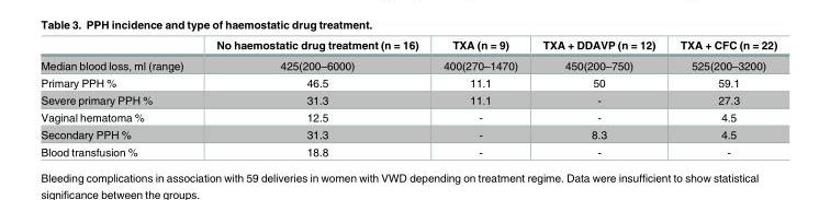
<table><thead><tr><td></td><td>No haemostatic drug treatment (n = 16)</td><td>TXA (n = 9)</td><td>TXA + DDAVP (n = 12)</td><td>TXA + CFC (n = 22)</td></tr></thead><tbody><tr><td>Median blood loss, ml (range)</td><td>425(200–6000)</td><td>400(270–1470)</td><td>450(200–750)</td><td>525(200–3200)</td></tr><tr><td>Primary PPH %</td><td>46.5</td><td>11.1</td><td>50</td><td>59.1</td></tr><tr><td>Severe primary PPH %</td><td>31.3</td><td>11.1</td><td>-</td><td>27.3</td></tr><tr><td>Vaginal hematoma %</td><td>12.5</td><td>-</td><td>-</td><td>4.5</td></tr><tr><td>Secondary PPH %</td><td>31.3</td><td>-</td><td>8.3</td><td>4.5</td></tr><tr><td>Blood transfusion %</td><td>18.8</td><td>-</td><td>-</td><td>-</td></tr></tbody></table>